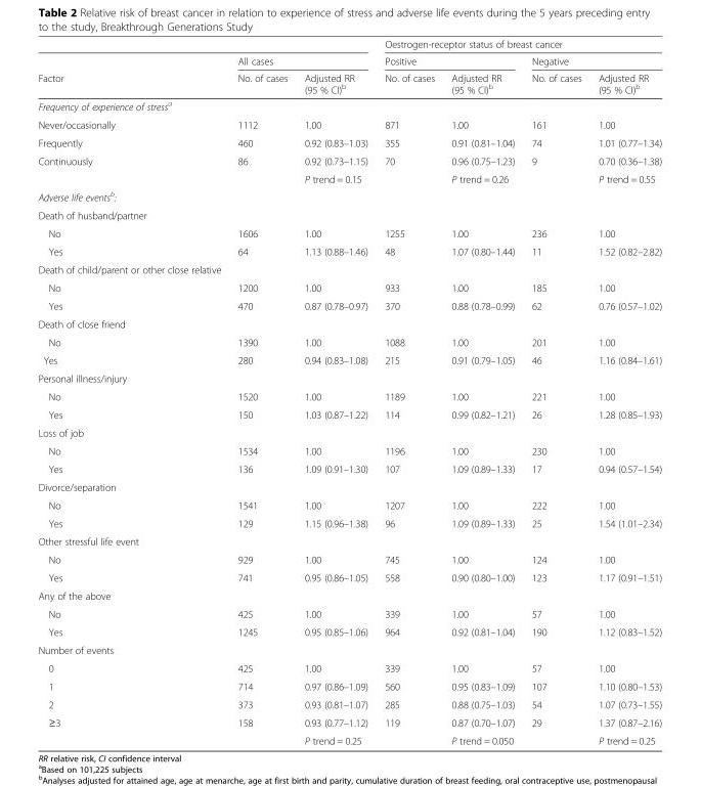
<table><thead><tr><td rowspan="3">Factor</td><td></td><td></td><td colspan="4">Oestrogen-receptor status of breast cancer</td></tr><tr><td colspan="2">All cases</td><td colspan="2">Positive</td><td colspan="2">Negative</td></tr><tr><td>No. of cases</td><td>Adjusted RR (95 % CI)<sup>b</sup></td><td>No. of cases</td><td>Adjusted RR (95 % CI)<sup>b</sup></td><td>No. of cases</td><td>Adjusted RR (95 % CI)<sup>b</sup></td></tr></thead><tbody><tr><td colspan="7">Frequency of experience of stress<sup>a</sup></td></tr><tr><td>Never/occasionally</td><td>1112</td><td>1.00</td><td>871</td><td>1.00</td><td>161</td><td>1.00</td></tr><tr><td>Frequently</td><td>460</td><td>0.92 (0.83–1.03)</td><td>355</td><td>0.91 (0.81–1.04)</td><td>74</td><td>1.01 (0.77–1.34)</td></tr><tr><td rowspan="2">Continuously</td><td>86</td><td>0.92 (0.73–1.15)</td><td>70</td><td>0.96 (0.75–1.23)</td><td>9</td><td>0.70 (0.36–1.38)</td></tr><tr><td></td><td>P trend = 0.15</td><td></td><td>P trend = 0.26</td><td></td><td>P trend = 0.55</td></tr><tr><td colspan="7">Adverse life events<sup>b</sup>:</td></tr><tr><td colspan="7">Death of husband/partner</td></tr><tr><td>No</td><td>1606</td><td>1.00</td><td>1255</td><td>1.00</td><td>236</td><td>1.00</td></tr><tr><td>Yes</td><td>64</td><td>1.13 (0.88–1.46)</td><td>48</td><td>1.07 (0.80–1.44)</td><td>11</td><td>1.52 (0.82–2.82)</td></tr><tr><td colspan="7">Death of child/parent or other close relative</td></tr><tr><td>No</td><td>1200</td><td>1.00</td><td>933</td><td>1.00</td><td>185</td><td>1.00</td></tr><tr><td>Yes</td><td>470</td><td>0.87 (0.78–0.97)</td><td>370</td><td>0.88 (0.78–0.99)</td><td>62</td><td>0.76 (0.57–1.02)</td></tr><tr><td colspan="7">Death of close friend</td></tr><tr><td>No</td><td>1390</td><td>1.00</td><td>1088</td><td>1.00</td><td>201</td><td>1.00</td></tr><tr><td>Yes</td><td>280</td><td>0.94 (0.83–1.08)</td><td>215</td><td>0.91 (0.79–1.05)</td><td>46</td><td>1.16 (0.84–1.61)</td></tr><tr><td colspan="7">Personal illness/injury</td></tr><tr><td>No</td><td>1520</td><td>1.00</td><td>1189</td><td>1.00</td><td>221</td><td>1.00</td></tr><tr><td>Yes</td><td>150</td><td>1.03 (0.87–1.22)</td><td>114</td><td>0.99 (0.82–1.21)</td><td>26</td><td>1.28 (0.85–1.93)</td></tr><tr><td colspan="7">Loss of job</td></tr><tr><td>No</td><td>1534</td><td>1.00</td><td>1196</td><td>1.00</td><td>230</td><td>1.00</td></tr><tr><td>Yes</td><td>136</td><td>1.09 (0.91–1.30)</td><td>107</td><td>1.09 (0.89–1.33)</td><td>17</td><td>0.94 (0.57–1.54)</td></tr><tr><td colspan="7">Divorce/separation</td></tr><tr><td>No</td><td>1541</td><td>1.00</td><td>1207</td><td>1.00</td><td>222</td><td>1.00</td></tr><tr><td>Yes</td><td>129</td><td>1.15 (0.96–1.38)</td><td>96</td><td>1.09 (0.89–1.33)</td><td>25</td><td>1.54 (1.01–2.34)</td></tr><tr><td colspan="7">Other stressful life event</td></tr><tr><td>No</td><td>929</td><td>1.00</td><td>745</td><td>1.00</td><td>124</td><td>1.00</td></tr><tr><td>Yes</td><td>741</td><td>0.95 (0.86–1.05)</td><td>558</td><td>0.90 (0.80–1.00)</td><td>123</td><td>1.17 (0.91–1.51)</td></tr><tr><td colspan="7">Any of the above</td></tr><tr><td>No</td><td>425</td><td>1.00</td><td>339</td><td>1.00</td><td>57</td><td>1.00</td></tr><tr><td>Yes</td><td>1245</td><td>0.95 (0.85–1.06)</td><td>964</td><td>0.92 (0.81–1.04)</td><td>190</td><td>1.12 (0.83–1.52)</td></tr><tr><td colspan="7">Number of events</td></tr><tr><td>0</td><td>425</td><td>1.00</td><td>339</td><td>1.00</td><td>57</td><td>1.00</td></tr><tr><td>1</td><td>714</td><td>0.97 (0.86–1.09)</td><td>560</td><td>0.95 (0.83–1.09)</td><td>107</td><td>1.10 (0.80–1.53)</td></tr><tr><td>2</td><td>373</td><td>0.93 (0.81–1.07)</td><td>285</td><td>0.88 (0.75–1.03)</td><td>54</td><td>1.07 (0.73–1.55)</td></tr><tr><td rowspan="2">≥3</td><td>158</td><td>0.93 (0.77–1.12)</td><td>119</td><td>0.87 (0.70–1.07)</td><td>29</td><td>1.37 (0.87–2.16)</td></tr><tr><td></td><td>P trend = 0.25</td><td></td><td>P trend = 0.050</td><td></td><td>P trend = 0.25</td></tr></tbody></table>